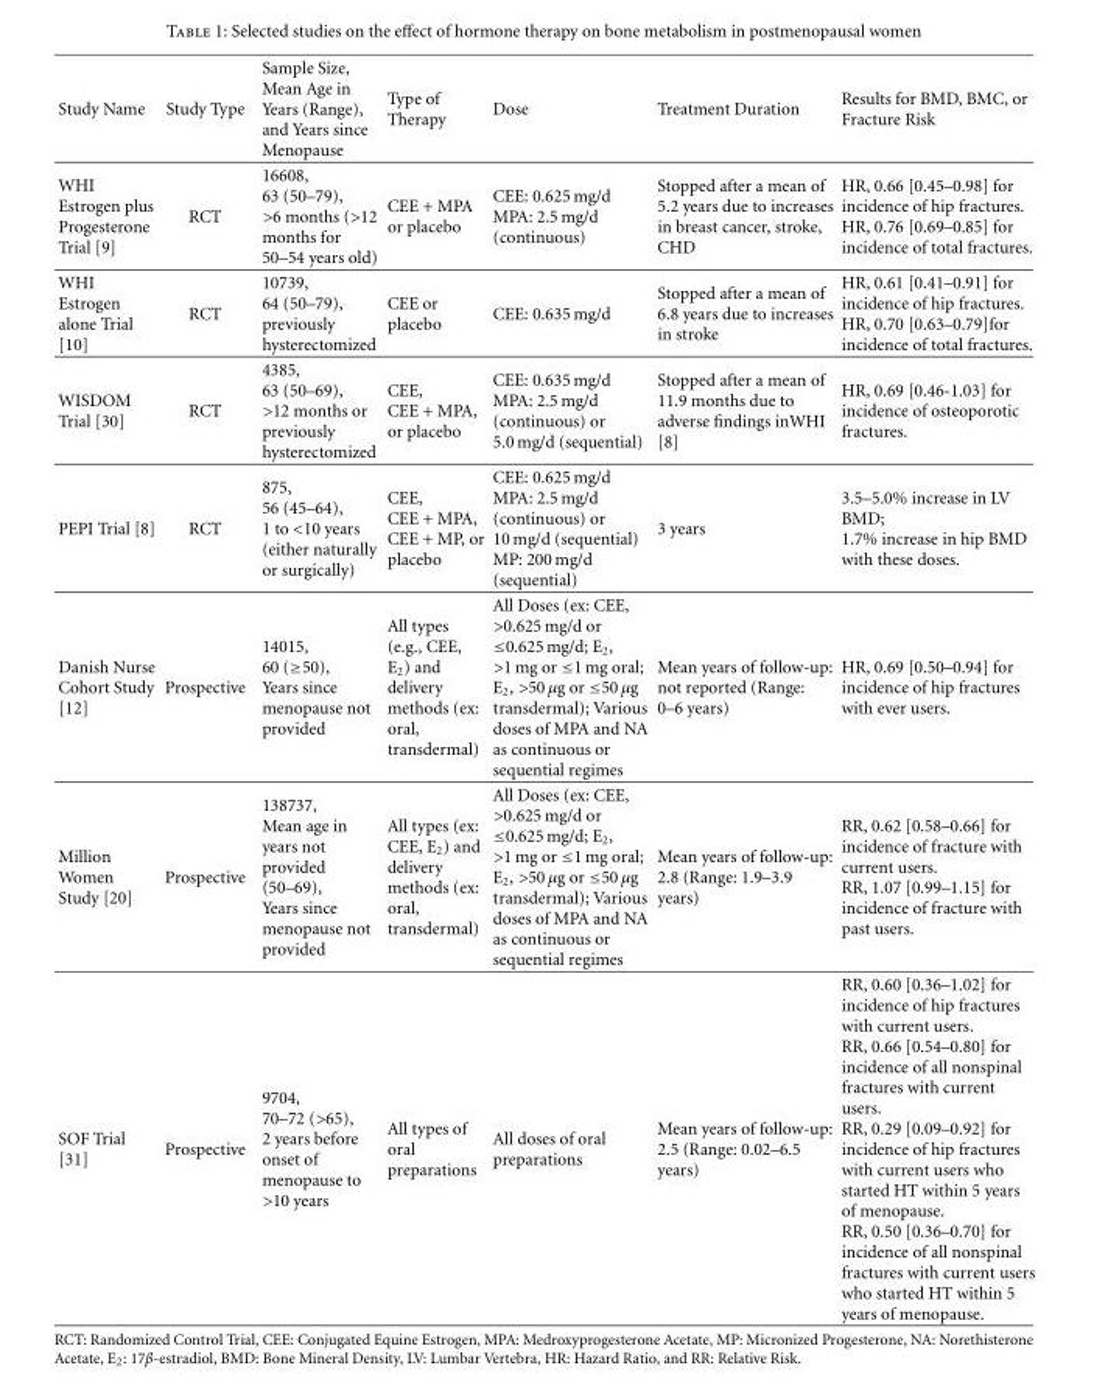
<table><thead><tr><td>Study Name</td><td>Study Type</td><td>Sample Size, Mean Age in Years (Range), and Years since Menopause</td><td>Type of Therapy</td><td>Dose</td><td>Treatment Duration</td><td>Results for BMD, BMC, or Fracture Risk</td></tr></thead><tbody><tr><td>WHI Estrogen plus Progesterone Trial [9]</td><td>RCT</td><td>16608, 63 (50–79), &gt;6 months (&gt;12 months for 50–54 years old)</td><td>CEE + MPA or placebo</td><td>CEE: 0.625 mg/d MPA: 2.5 mg/d (continuous)</td><td>Stopped after a mean of 5.2 years due to increases in breast cancer, stroke, CHD</td><td>HR, 0.66 [0.45–0.98] for incidence of hip fractures. HR, 0.76 [0.69–0.85] for incidence of total fractures.</td></tr><tr><td>WHI Estrogen alone Trial [10]</td><td>RCT</td><td>10739, 64 (50–79), previously hysterectomized</td><td>CEE or placebo</td><td>CEE: 0.635 mg/d</td><td>Stopped after a mean of 6.8 years due to increases in stroke</td><td>HR, 0.61 [0.41–0.91] for incidence of hip fractures. HR, 0.70 [0.63–0.79]for incidence of total fractures.</td></tr><tr><td>WISDOM Trial [30]</td><td>RCT</td><td>4385, 63 (50–69), &gt;12 months or previously hysterectomized</td><td>CEE, CEE + MPA, or placebo</td><td>CEE: 0.635 mg/d MPA: 2.5 mg/d (continuous) or 5.0 mg/d (sequential)</td><td>Stopped after a mean of 11.9 months due to adverse findings inWHI [8]</td><td>HR, 0.69 [0.46-1.03] for incidence of osteoporotic fractures.</td></tr><tr><td>PEPI Trial [8]</td><td>RCT</td><td>875, 56 (45–64), 1 to &lt;10 years (either naturally or surgically)</td><td>CEE, CEE + MPA, CEE + MP, or placebo</td><td>CEE: 0.625 mg/d MPA: 2.5 mg/d (continuous) or 10 mg/d (sequential) MP: 200 mg/d (sequential)</td><td>3 years</td><td>3.5–5.0% increase in LV BMD; 1.7% increase in hip BMD with these doses.</td></tr><tr><td>Danish Nurse Cohort Study [12]</td><td>Prospective</td><td>14015, 60 (≥50), Years since menopause not provided</td><td>All types (e.g., CEE, E<sub>2</sub>) and delivery methods (ex: oral, transdermal)</td><td>All Doses (ex: CEE, &gt;0.625 mg/d or ≤0.625 mg/d; E<sub>2</sub>, &gt;1 mg or ≤1 mg oral; E<sub>2</sub>, &gt;50 μg or ≤50 μg transdermal); Various doses of MPA and NA as continuous or sequential regimes</td><td>Mean years of follow-up: not reported (Range: 0–6 years)</td><td>HR, 0.69 [0.50–0.94] for incidence of hip fractures with ever users.</td></tr><tr><td>Million Women Study [20]</td><td>Prospective</td><td>138737, Mean age in years not provided (50–69), Years since menopause not provided</td><td>All types (ex: CEE, E<sub>2</sub>) and delivery methods (ex: oral, transdermal)</td><td>All Doses (ex: CEE, &gt;0.625 mg/d or ≤0.625 mg/d; E<sub>2</sub>, &gt;1 mg or ≤1 mg oral; E<sub>2</sub>, &gt;50 μg or ≤50 μg transdermal); Various doses of MPA and NA as continuous or sequential regimes</td><td>Mean years of follow-up: 2.8 (Range: 1.9–3.9 years)</td><td>RR, 0.62 [0.58–0.66] for incidence of fracture with current users. RR, 1.07 [0.99–1.15] for incidence of fracture with past users.</td></tr><tr><td>SOF Trial [31]</td><td>Prospective</td><td>9704, 70–72 (&gt;65), 2 years before onset of menopause to &gt;10 years</td><td>All types of oral preparations</td><td>All doses of oral preparations</td><td>Mean years of follow-up: 2.5 (Range: 0.02–6.5 years)</td><td>RR, 0.60 [0.36–1.02] for incidence of hip fractures with current users. RR, 0.66 [0.54–0.80] for incidence of all nonspinal fractures with current users. RR, 0.29 [0.09–0.92] for incidence of hip fractures with current users who started HT within 5 years of menopause. RR, 0.50 [0.36–0.70] for incidence of all nonspinal fractures with current users who started HT within 5 years of menopause.</td></tr></tbody></table>